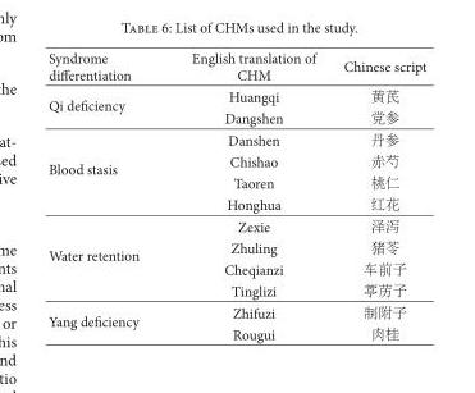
<table><thead><tr><td>Syndrome differentiation</td><td>English translation of CHM</td><td>Chinese script</td></tr></thead><tbody><tr><td rowspan="2">Qi deficiency</td><td>Huangqi</td><td>黄芪</td></tr><tr><td>Dangshen</td><td>党参</td></tr><tr><td rowspan="4">Blood stasis</td><td>Danshen</td><td>丹参</td></tr><tr><td>Chishao</td><td>赤芍</td></tr><tr><td>Taoren</td><td>桃仁</td></tr><tr><td>Honghua</td><td>红花</td></tr><tr><td rowspan="4">Water retention</td><td>Zexie</td><td>泽泻</td></tr><tr><td>Zhuling</td><td>猪苓</td></tr><tr><td>Cheqianzi</td><td>车前子</td></tr><tr><td>Tinglizi</td><td>葶苈子</td></tr><tr><td rowspan="2">Yang deficiency</td><td>Zhifuzi</td><td>制附子</td></tr><tr><td>Rougui</td><td>肉桂</td></tr></tbody></table>